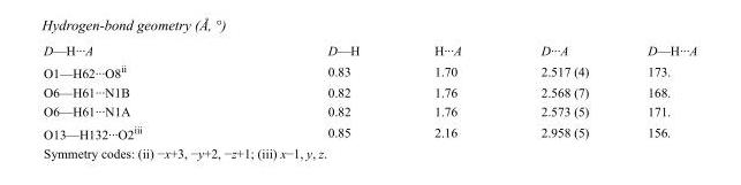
<table><tbody><tr><td>D—H···A</td><td>D—H</td><td>H···A</td><td>D···A</td><td>D—H···A</td></tr><tr><td>O1—H62···O8<sup>ii</sup></td><td>0.83</td><td>1.70</td><td>2.517 (4)</td><td>173.</td></tr><tr><td>O6—H61···N1B</td><td>0.82</td><td>1.76</td><td>2.568 (7)</td><td>168.</td></tr><tr><td>O6—H61···N1A</td><td>0.82</td><td>1.76</td><td>2.573 (5)</td><td>171.</td></tr><tr><td>O13—H132···O2<sup>iii</sup></td><td>0.85</td><td>2.16</td><td>2.958 (5)</td><td>156.</td></tr></tbody></table>